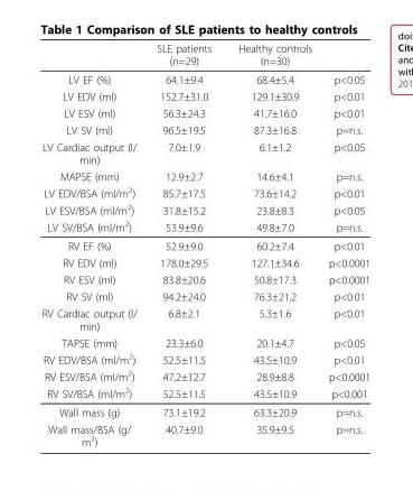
<table><thead><tr><td></td><td>SLE patients (n=29)</td><td>Healthy controls (n=30)</td><td></td></tr></thead><tbody><tr><td>LV EF (%)</td><td>64.1±9.4</td><td>68.4±5.4</td><td>p&lt;0.05</td></tr><tr><td>LV EDV (ml)</td><td>152.7±31.0</td><td>129.1±30.9</td><td>p&lt;0.01</td></tr><tr><td>LV ESV (ml)</td><td>56.3±24.3</td><td>41.7±16.0</td><td>p&lt;0.01</td></tr><tr><td>LV SV (ml)</td><td>96.5±19.5</td><td>87.3±16.8</td><td>p=n.s.</td></tr><tr><td>LV Cardiac output (l/ min)</td><td>7.0±1.9</td><td>6.1±1.2</td><td>p&lt;0.05</td></tr><tr><td>MAPSE (mm)</td><td>12.9±2.7</td><td>14.6±4.1</td><td>p=n.s.</td></tr><tr><td>LV EDV/BSA (ml/m<sup>2</sup>)</td><td>85.7±17.5</td><td>73.6±14.2</td><td>p&lt;0.01</td></tr><tr><td>LV ESV/BSA (ml/m<sup>2</sup>)</td><td>31.8±15.2</td><td>23.8±8.3</td><td>p&lt;0.05</td></tr><tr><td>LV SV/BSA (ml/m<sup>2</sup>)</td><td>53.9±9.6</td><td>49.8±7.0</td><td>p=n.s.</td></tr><tr><td>RV EF (%)</td><td>52.9±9.0</td><td>60.2±7.4</td><td>p&lt;0.01</td></tr><tr><td>RV EDV (ml)</td><td>178.0±29.5</td><td>127.1±34.6</td><td>p&lt;0.0001</td></tr><tr><td>RV ESV (ml)</td><td>83.8±20.6</td><td>50.8±17.3</td><td>p&lt;0.0001</td></tr><tr><td>RV SV (ml)</td><td>94.2±24.0</td><td>76.3±21.2</td><td>p&lt;0.01</td></tr><tr><td>RV Cardiac output (l/ min)</td><td>6.8±2.1</td><td>5.3±1.6</td><td>p&lt;0.01</td></tr><tr><td>TAPSE (mm)</td><td>23.3±6.0</td><td>20.1±4.7</td><td>p&lt;0.05</td></tr><tr><td>RV EDV/BSA (ml/m<sup>2</sup>)</td><td>52.5±11.5</td><td>43.5±10.9</td><td>p&lt;0.01</td></tr><tr><td>RV ESV/BSA (ml/m<sup>2</sup>)</td><td>47.2±12.7</td><td>28.9±8.8</td><td>p&lt;0.0001</td></tr><tr><td>RV SV/BSA (ml/m<sup>2</sup>)</td><td>52.5±11.5</td><td>43.5±10.9</td><td>p&lt;0.001</td></tr><tr><td>Wall mass (g)</td><td>73.1±19.2</td><td>63.3±20.9</td><td>p=n.s.</td></tr><tr><td>Wall mass/BSA (g/ m<sup>2</sup>)</td><td>40.7±9.0</td><td>35.9±9.5</td><td>p=n.s.</td></tr></tbody></table>